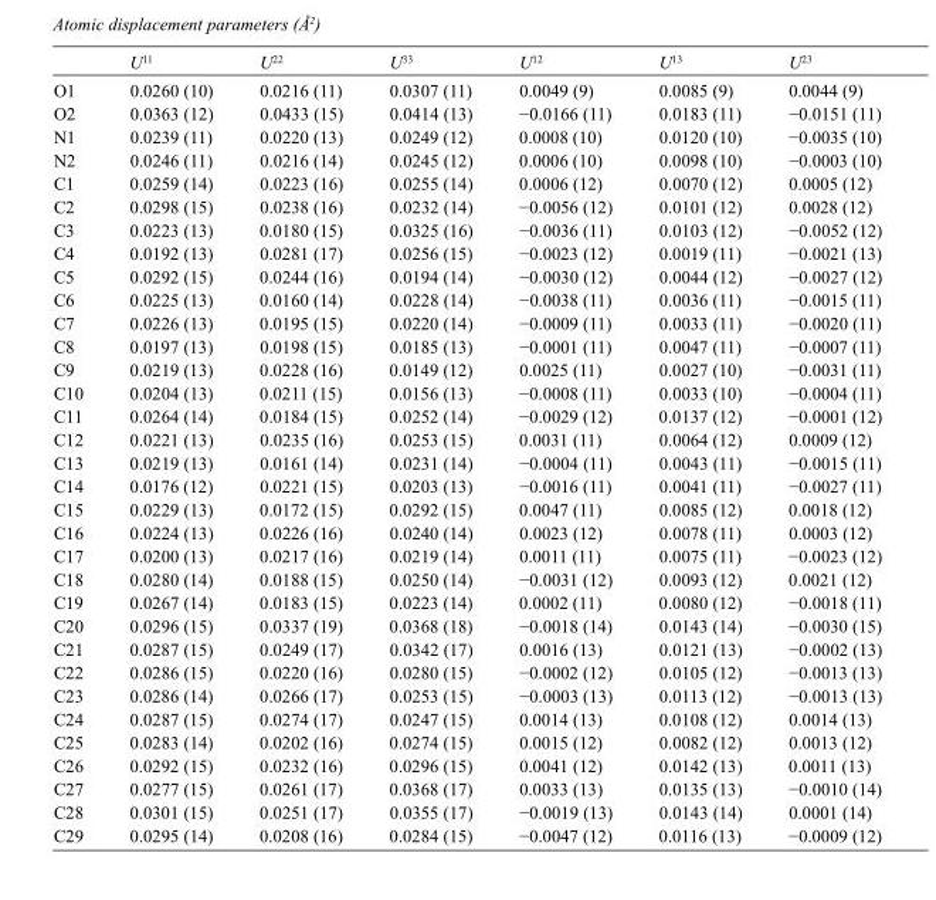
<table><thead><tr><td></td><td>U<sup>11</sup></td><td>U<sup>22</sup></td><td>U<sup>33</sup></td><td>U<sup>12</sup></td><td>U<sup>13</sup></td><td>U<sup>23</sup></td></tr></thead><tbody><tr><td>O1</td><td>0.0260 (10)</td><td>0.0216 (11)</td><td>0.0307 (11)</td><td>0.0049 (9)</td><td>0.0085 (9)</td><td>0.0044 (9)</td></tr><tr><td>O2</td><td>0.0363 (12)</td><td>0.0433 (15)</td><td>0.0414 (13)</td><td>−0.0166 (11)</td><td>0.0183 (11)</td><td>−0.0151 (11)</td></tr><tr><td>N1</td><td>0.0239 (11)</td><td>0.0220 (13)</td><td>0.0249 (12)</td><td>0.0008 (10)</td><td>0.0120 (10)</td><td>−0.0035 (10)</td></tr><tr><td>N2</td><td>0.0246 (11)</td><td>0.0216 (14)</td><td>0.0245 (12)</td><td>0.0006 (10)</td><td>0.0098 (10)</td><td>−0.0003 (10)</td></tr><tr><td>C1</td><td>0.0259 (14)</td><td>0.0223 (16)</td><td>0.0255 (14)</td><td>0.0006 (12)</td><td>0.0070 (12)</td><td>0.0005 (12)</td></tr><tr><td>C2</td><td>0.0298 (15)</td><td>0.0238 (16)</td><td>0.0232 (14)</td><td>−0.0056 (12)</td><td>0.0101 (12)</td><td>0.0028 (12)</td></tr><tr><td>C3</td><td>0.0223 (13)</td><td>0.0180 (15)</td><td>0.0325 (16)</td><td>−0.0036 (11)</td><td>0.0103 (12)</td><td>−0.0052 (12)</td></tr><tr><td>C4</td><td>0.0192 (13)</td><td>0.0281 (17)</td><td>0.0256 (15)</td><td>−0.0023 (12)</td><td>0.0019 (11)</td><td>−0.0021 (13)</td></tr><tr><td>C5</td><td>0.0292 (15)</td><td>0.0244 (16)</td><td>0.0194 (14)</td><td>−0.0030 (12)</td><td>0.0044 (12)</td><td>−0.0027 (12)</td></tr><tr><td>C6</td><td>0.0225 (13)</td><td>0.0160 (14)</td><td>0.0228 (14)</td><td>−0.0038 (11)</td><td>0.0036 (11)</td><td>−0.0015 (11)</td></tr><tr><td>C7</td><td>0.0226 (13)</td><td>0.0195 (15)</td><td>0.0220 (14)</td><td>−0.0009 (11)</td><td>0.0033 (11)</td><td>−0.0020 (11)</td></tr><tr><td>C8</td><td>0.0197 (13)</td><td>0.0198 (15)</td><td>0.0185 (13)</td><td>−0.0001 (11)</td><td>0.0047 (11)</td><td>−0.0007 (11)</td></tr><tr><td>C9</td><td>0.0219 (13)</td><td>0.0228 (16)</td><td>0.0149 (12)</td><td>0.0025 (11)</td><td>0.0027 (10)</td><td>−0.0031 (11)</td></tr><tr><td>C10</td><td>0.0204 (13)</td><td>0.0211 (15)</td><td>0.0156 (13)</td><td>−0.0008 (11)</td><td>0.0033 (10)</td><td>−0.0004 (11)</td></tr><tr><td>C11</td><td>0.0264 (14)</td><td>0.0184 (15)</td><td>0.0252 (14)</td><td>−0.0029 (12)</td><td>0.0137 (12)</td><td>−0.0001 (12)</td></tr><tr><td>C12</td><td>0.0221 (13)</td><td>0.0235 (16)</td><td>0.0253 (15)</td><td>0.0031 (11)</td><td>0.0064 (12)</td><td>0.0009 (12)</td></tr><tr><td>C13</td><td>0.0219 (13)</td><td>0.0161 (14)</td><td>0.0231 (14)</td><td>−0.0004 (11)</td><td>0.0043 (11)</td><td>−0.0015 (11)</td></tr><tr><td>C14</td><td>0.0176 (12)</td><td>0.0221 (15)</td><td>0.0203 (13)</td><td>−0.0016 (11)</td><td>0.0041 (11)</td><td>−0.0027 (11)</td></tr><tr><td>C15</td><td>0.0229 (13)</td><td>0.0172 (15)</td><td>0.0292 (15)</td><td>0.0047 (11)</td><td>0.0085 (12)</td><td>0.0018 (12)</td></tr><tr><td>C16</td><td>0.0224 (13)</td><td>0.0226 (16)</td><td>0.0240 (14)</td><td>0.0023 (12)</td><td>0.0078 (11)</td><td>0.0003 (12)</td></tr><tr><td>C17</td><td>0.0200 (13)</td><td>0.0217 (16)</td><td>0.0219 (14)</td><td>0.0011 (11)</td><td>0.0075 (11)</td><td>−0.0023 (12)</td></tr><tr><td>C18</td><td>0.0280 (14)</td><td>0.0188 (15)</td><td>0.0250 (14)</td><td>−0.0031 (12)</td><td>0.0093 (12)</td><td>0.0021 (12)</td></tr><tr><td>C19</td><td>0.0267 (14)</td><td>0.0183 (15)</td><td>0.0223 (14)</td><td>0.0002 (11)</td><td>0.0080 (12)</td><td>−0.0018 (11)</td></tr><tr><td>C20</td><td>0.0296 (15)</td><td>0.0337 (19)</td><td>0.0368 (18)</td><td>−0.0018 (14)</td><td>0.0143 (14)</td><td>−0.0030 (15)</td></tr><tr><td>C21</td><td>0.0287 (15)</td><td>0.0249 (17)</td><td>0.0342 (17)</td><td>0.0016 (13)</td><td>0.0121 (13)</td><td>−0.0002 (13)</td></tr><tr><td>C22</td><td>0.0286 (15)</td><td>0.0220 (16)</td><td>0.0280 (15)</td><td>−0.0002 (12)</td><td>0.0105 (12)</td><td>−0.0013 (13)</td></tr><tr><td>C23</td><td>0.0286 (14)</td><td>0.0266 (17)</td><td>0.0253 (15)</td><td>−0.0003 (13)</td><td>0.0113 (12)</td><td>−0.0013 (13)</td></tr><tr><td>C24</td><td>0.0287 (15)</td><td>0.0274 (17)</td><td>0.0247 (15)</td><td>0.0014 (13)</td><td>0.0108 (12)</td><td>0.0014 (13)</td></tr><tr><td>C25</td><td>0.0283 (14)</td><td>0.0202 (16)</td><td>0.0274 (15)</td><td>0.0015 (12)</td><td>0.0082 (12)</td><td>0.0013 (12)</td></tr><tr><td>C26</td><td>0.0292 (15)</td><td>0.0232 (16)</td><td>0.0296 (15)</td><td>0.0041 (12)</td><td>0.0142 (13)</td><td>0.0011 (13)</td></tr><tr><td>C27</td><td>0.0277 (15)</td><td>0.0261 (17)</td><td>0.0368 (17)</td><td>0.0033 (13)</td><td>0.0135 (13)</td><td>−0.0010 (14)</td></tr><tr><td>C28</td><td>0.0301 (15)</td><td>0.0251 (17)</td><td>0.0355 (17)</td><td>−0.0019 (13)</td><td>0.0143 (14)</td><td>0.0001 (14)</td></tr><tr><td>C29</td><td>0.0295 (14)</td><td>0.0208 (16)</td><td>0.0284 (15)</td><td>−0.0047 (12)</td><td>0.0116 (13)</td><td>−0.0009 (12)</td></tr></tbody></table>